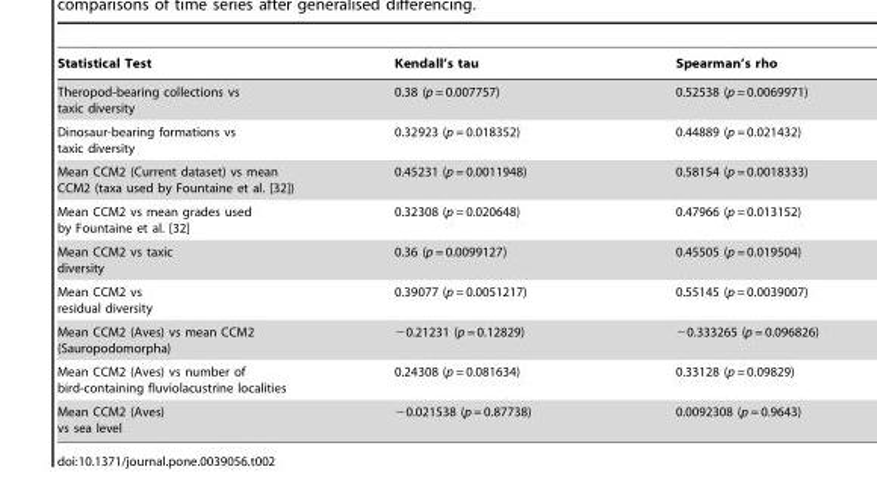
<table><thead><tr><td>Statistical Test</td><td>Kendall’s tau</td><td>Spearman’s rho</td></tr></thead><tbody><tr><td>Theropod-bearing collections vs taxic diversity</td><td>0.38 (p = 0.007757)</td><td>0.52538 (p = 0.0069971)</td></tr><tr><td>Dinosaur-bearing formations vs taxic diversity</td><td>0.32923 (p = 0.018352)</td><td>0.44889 (p = 0.021432)</td></tr><tr><td>Mean CCM2 (Current dataset) vs mean CCM2 (taxa used by Fountaine et al. [32])</td><td>0.45231 (p = 0.0011948)</td><td>0.58154 (p = 0.0018333)</td></tr><tr><td>Mean CCM2 vs mean grades used by Fountaine et al. [32]</td><td>0.32308 (p = 0.020648)</td><td>0.47966 (p = 0.013152)</td></tr><tr><td>Mean CCM2 vs taxic diversity</td><td>0.36 (p = 0.0099127)</td><td>0.45505 (p = 0.019504)</td></tr><tr><td>Mean CCM2 vs residual diversity</td><td>0.39077 (p = 0.0051217)</td><td>0.55145 (p = 0.0039007)</td></tr><tr><td>Mean CCM2 (Aves) vs mean CCM2 (Sauropodomorpha)</td><td>−0.21231 (p = 0.12829)</td><td>−0.333265 (p = 0.096826)</td></tr><tr><td>Mean CCM2 (Aves) vs number of bird-containing fluviolacustrine localities</td><td>0.24308 (p = 0.081634)</td><td>0.33128 (p = 0.09829)</td></tr><tr><td>Mean CCM2 (Aves) vs sea level</td><td>−0.021538 (p = 0.87738)</td><td>0.0092308 (p = 0.9643)</td></tr></tbody></table>